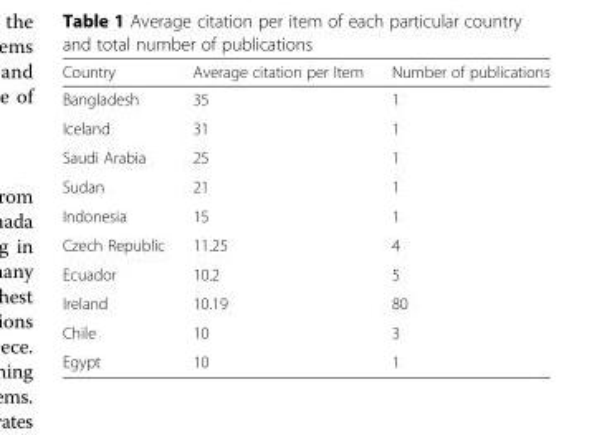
<table><thead><tr><td>Country</td><td>Average citation per Item</td><td>Number of publications</td></tr></thead><tbody><tr><td>Bangladesh</td><td>35</td><td>1</td></tr><tr><td>Iceland</td><td>31</td><td>1</td></tr><tr><td>Saudi Arabia</td><td>25</td><td>1</td></tr><tr><td>Sudan</td><td>21</td><td>1</td></tr><tr><td>Indonesia</td><td>15</td><td>1</td></tr><tr><td>Czech Republic</td><td>11.25</td><td>4</td></tr><tr><td>Ecuador</td><td>10.2</td><td>5</td></tr><tr><td>Ireland</td><td>10.19</td><td>80</td></tr><tr><td>Chile</td><td>10</td><td>3</td></tr><tr><td>Egypt</td><td>10</td><td>1</td></tr></tbody></table>